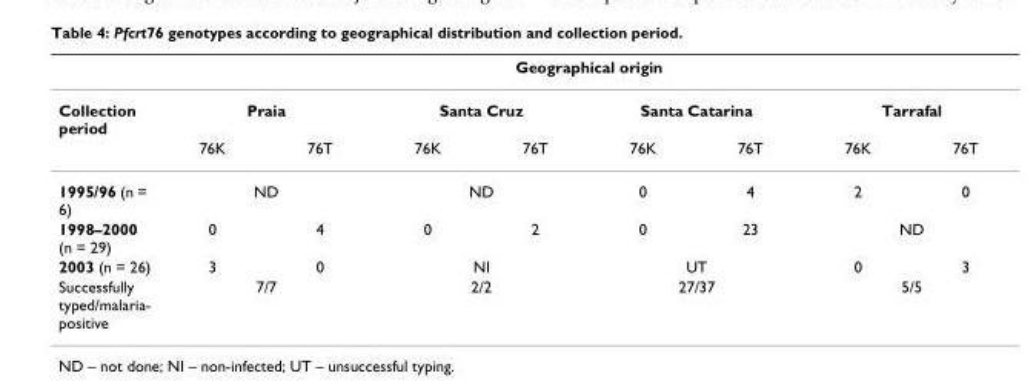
<table><thead><tr><td rowspan="3">Collection period</td><td colspan="8">Geographical origin</td></tr><tr><td colspan="2">Praia</td><td colspan="2">Santa Cruz</td><td colspan="2">Santa Catarina</td><td colspan="2">Tarrafal</td></tr><tr><td>76K</td><td>76T</td><td>76K</td><td>76T</td><td>76K</td><td>76T</td><td>76K</td><td>76T</td></tr></thead><tbody><tr><td>1995/96 (n = 6)</td><td colspan="2">ND</td><td colspan="2">ND</td><td>0</td><td>4</td><td>2</td><td>0</td></tr><tr><td>1998–2000 (n = 29)</td><td>0</td><td>4</td><td>0</td><td>2</td><td>0</td><td>23</td><td colspan="2">ND</td></tr><tr><td>2003 (n = 26)</td><td>3</td><td>0</td><td colspan="2">NI</td><td colspan="2">UT</td><td>0</td><td>3</td></tr><tr><td>Successfully typed/malaria- positive</td><td colspan="2">7/7</td><td colspan="2">2/2</td><td colspan="2">27/37</td><td colspan="2">5/5</td></tr></tbody></table>